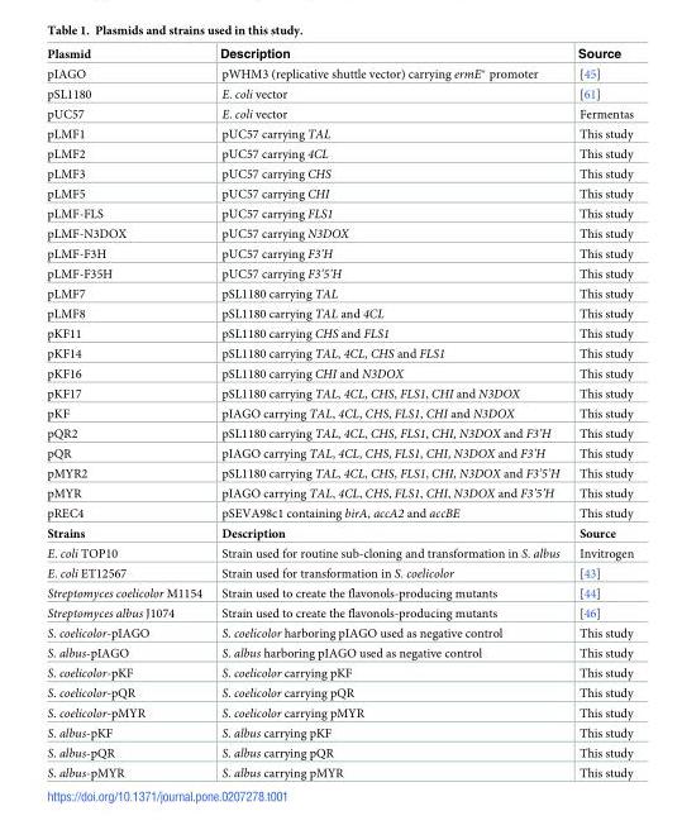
<table><thead><tr><td>Plasmid</td><td>Description</td><td>Source</td></tr></thead><tbody><tr><td>pIAGO</td><td>pWHM3 (replicative shuttle vector) carrying ermE* promoter</td><td>[45]</td></tr><tr><td>pSL1180</td><td>E. coli vector</td><td>[61]</td></tr><tr><td>pUC57</td><td>E. coli vector</td><td>Fermentas</td></tr><tr><td>pLMF1</td><td>pUC57 carrying TAL</td><td>This study</td></tr><tr><td>pLMF2</td><td>pUC57 carrying 4CL</td><td>This study</td></tr><tr><td>pLMF3</td><td>pUC57 carrying CHS</td><td>This study</td></tr><tr><td>pLMF5</td><td>pUC57 carrying CHI</td><td>This study</td></tr><tr><td>pLMF-FLS</td><td>pUC57 carrying FLS1</td><td>This study</td></tr><tr><td>pLMF-N3DOX</td><td>pUC57 carrying N3DOX</td><td>This study</td></tr><tr><td>pLMF-F3H</td><td>pUC57 carrying F3’H</td><td>This study</td></tr><tr><td>pLMF-F35H</td><td>pUC57 carrying F3’5’H</td><td>This study</td></tr><tr><td>pLMF7</td><td>pSL1180 carrying TAL</td><td>This study</td></tr><tr><td>pLMF8</td><td>pSL1180 carrying TAL and 4CL</td><td>This study</td></tr><tr><td>pKF11</td><td>pSL1180 carrying CHS and FLS1</td><td>This study</td></tr><tr><td>pKF14</td><td>pSL1180 carrying TAL, 4CL, CHS and FLS1</td><td>This study</td></tr><tr><td>pKF16</td><td>pSL1180 carrying CHI and N3DOX</td><td>This study</td></tr><tr><td>pKF17</td><td>pSL1180 carrying TAL, 4CL, CHS, FLS1, CHI and N3DOX</td><td>This study</td></tr><tr><td>pKF</td><td>pIAGO carrying TAL, 4CL, CHS, FLS1, CHI and N3DOX</td><td>This study</td></tr><tr><td>pQR2</td><td>pSL1180 carrying TAL, 4CL, CHS, FLS1, CHI, N3DOX and F3’H</td><td>This study</td></tr><tr><td>pQR</td><td>pIAGO carrying TAL, 4CL, CHS, FLS1, CHI, N3DOX and F3’H</td><td>This study</td></tr><tr><td>pMYR2</td><td>pSL1180 carrying TAL, 4CL, CHS, FLS1, CHI, N3DOX and F3’5’H</td><td>This study</td></tr><tr><td>pMYR</td><td>pIAGO carrying TAL, 4CL, CHS, FLS1, CHI, N3DOX and F3’5’H</td><td>This study</td></tr><tr><td>pREC4</td><td>pSEVA98c1 containing birA, accA2 and accBE</td><td>This study</td></tr><tr><td>Strains</td><td>Description</td><td>Source</td></tr><tr><td>E. coli TOP10</td><td>Strain used for routine sub-cloning and transformation in S. albus</td><td>Invitrogen</td></tr><tr><td>E. coli ET12567</td><td>Strain used for transformation in S. coelicolor</td><td>[43]</td></tr><tr><td>Streptomyces coelicolor M1154</td><td>Strain used to create the flavonols-producing mutants</td><td>[44]</td></tr><tr><td>Streptomyces albus J1074</td><td>Strain used to create the flavonols-producing mutants</td><td>[46]</td></tr><tr><td>S. coelicolor-pIAGO</td><td>S. coelicolor harboring pIAGO used as negative control</td><td>This study</td></tr><tr><td>S. albus-pIAGO</td><td>S. albus harboring pIAGO used as negative control</td><td>This study</td></tr><tr><td>S. coelicolor-pKF</td><td>S. coelicolor carrying pKF</td><td>This study</td></tr><tr><td>S. coelicolor-pQR</td><td>S. coelicolor carrying pQR</td><td>This study</td></tr><tr><td>S. coelicolor-pMYR</td><td>S. coelicolor carrying pMYR</td><td>This study</td></tr><tr><td>S. albus-pKF</td><td>S. albus carrying pKF</td><td>This study</td></tr><tr><td>S. albus-pQR</td><td>S. albus carrying pQR</td><td>This study</td></tr><tr><td>S. albus-pMYR</td><td>S. albus carrying pMYR</td><td>This study</td></tr></tbody></table>